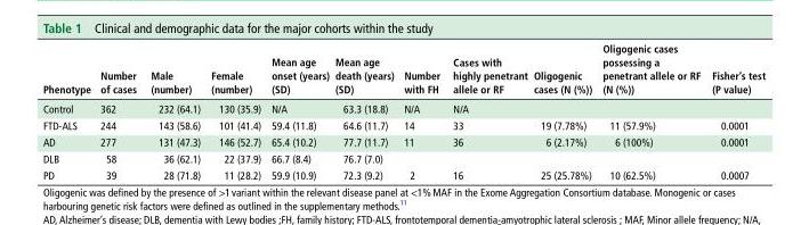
<table><thead><tr><td>Phenotype</td><td>Number of cases</td><td>Male (number)</td><td>Female (number)</td><td>Mean age onset (years) (sd)</td><td>Mean age death (years) (sd)</td><td>Number with Fh</td><td>Cases with highly penetrant allele or rF</td><td>oligogenic cases (N (%))</td><td>oligogenic cases possessing a penetrant allele or rF (N (%))</td><td>Fisher’s test (P value)</td></tr></thead><tbody><tr><td>Control</td><td>362</td><td>232 (64.1)</td><td>130 (35.9)</td><td>N/A</td><td>63.3 (18.8)</td><td>N/A</td><td>N/A</td><td></td><td></td><td></td></tr><tr><td>FTD-ALS</td><td>244</td><td>143 (58.6)</td><td>101 (41.4)</td><td>59.4 (11.8)</td><td>64.6 (11.7)</td><td>14</td><td>33</td><td>19 (7.78%)</td><td>11 (57.9%)</td><td>0.0001</td></tr><tr><td>AD</td><td>277</td><td>131 (47.3)</td><td>146 (52.7)</td><td>65.4 (10.2)</td><td>77.7 (11.7)</td><td>11</td><td>36</td><td>6 (2.17%)</td><td>6 (100%)</td><td>0.0001</td></tr><tr><td>DLB</td><td>58</td><td>36 (62.1)</td><td>22 (37.9)</td><td>66.7 (8.4)</td><td>76.7 (7.0)</td><td rowspan="2">2</td><td rowspan="2">16</td><td rowspan="2">25 (25.78%)</td><td rowspan="2">10 (62.5%)</td><td rowspan="2">0.0007</td></tr><tr><td>PD</td><td>39</td><td>28 (71.8)</td><td>11 (28.2)</td><td>59.9 (10.9)</td><td>72.3 (9.2)</td></tr></tbody></table>